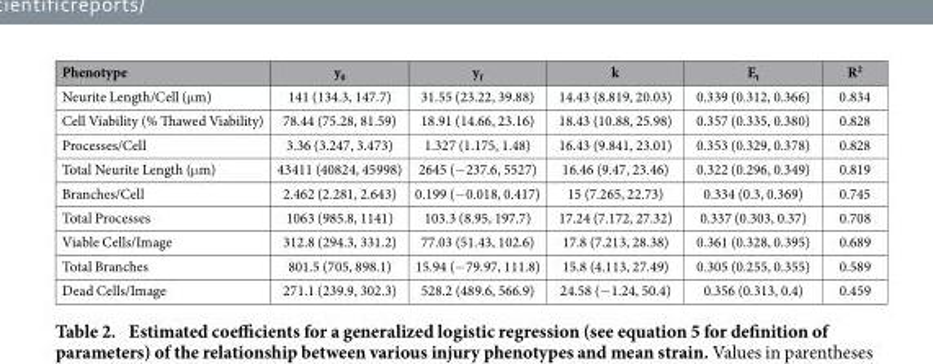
<table><thead><tr><td>Phenotype</td><td>y<sub>0</sub></td><td>y<sub>f</sub></td><td>k</td><td>E<sub>t</sub></td><td>R<sup>2</sup></td></tr></thead><tbody><tr><td>Neurite Length/Cell (μ m)</td><td>141 (134.3, 147.7)</td><td>31.55 (23.22, 39.88)</td><td>14.43 (8.819, 20.03)</td><td>0.339 (0.312, 0.366)</td><td>0.834</td></tr><tr><td>Cell Viability (% Thawed Viability)</td><td>78.44 (75.28, 81.59)</td><td>18.91 (14.66, 23.16)</td><td>18.43 (10.88, 25.98)</td><td>0.357 (0.335, 0.380)</td><td>0.828</td></tr><tr><td>Processes/Cell</td><td>3.36 (3.247, 3.473)</td><td>1.327 (1.175, 1.48)</td><td>16.43 (9.841, 23.01)</td><td>0.353 (0.329, 0.378)</td><td>0.828</td></tr><tr><td>Total Neurite Length (μ m)</td><td>43411 (40824, 45998)</td><td>2645 (− 237.6, 5527)</td><td>16.46 (9.47, 23.46)</td><td>0.322 (0.296, 0.349)</td><td>0.819</td></tr><tr><td>Branches/Cell</td><td>2.462 (2.281, 2.643)</td><td>0.199 (− 0.018, 0.417)</td><td>15 (7.265, 22.73)</td><td>0.334 (0.3, 0.369)</td><td>0.745</td></tr><tr><td>Total Processes</td><td>1063 (985.8, 1141)</td><td>103.3 (8.95, 197.7)</td><td>17.24 (7.172, 27.32)</td><td>0.337 (0.303, 0.37)</td><td>0.708</td></tr><tr><td>Viable Cells/Image</td><td>312.8 (294.3, 331.2)</td><td>77.03 (51.43, 102.6)</td><td>17.8 (7.213, 28.38)</td><td>0.361 (0.328, 0.395)</td><td>0.689</td></tr><tr><td>Total Branches</td><td>801.5 (705, 898.1)</td><td>15.94 (− 79.97, 111.8)</td><td>15.8 (4.113, 27.49)</td><td>0.305 (0.255, 0.355)</td><td>0.589</td></tr><tr><td>Dead Cells/Image</td><td>271.1 (239.9, 302.3)</td><td>528.2 (489.6, 566.9)</td><td>24.58 (−1.24, 50.4)</td><td>0.356 (0.313, 0.4)</td><td>0.459</td></tr></tbody></table>